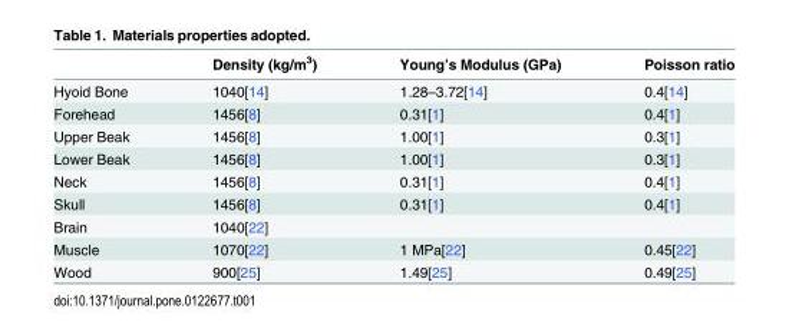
<table><thead><tr><td></td><td>Density (kg/m<sup>3</sup>)</td><td>Young’s Modulus (GPa)</td><td>Poisson ratio</td></tr></thead><tbody><tr><td>Hyoid Bone</td><td>1040[14]</td><td>1.28–3.72[14]</td><td>0.4[14]</td></tr><tr><td>Forehead</td><td>1456[8]</td><td>0.31[1]</td><td>0.4[1]</td></tr><tr><td>Upper Beak</td><td>1456[8]</td><td>1.00[1]</td><td>0.3[1]</td></tr><tr><td>Lower Beak</td><td>1456[8]</td><td>1.00[1]</td><td>0.3[1]</td></tr><tr><td>Neck</td><td>1456[8]</td><td>0.31[1]</td><td>0.4[1]</td></tr><tr><td>Skull</td><td>1456[8]</td><td>0.31[1]</td><td>0.4[1]</td></tr><tr><td>Brain</td><td>1040[22]</td><td></td><td></td></tr><tr><td>Muscle</td><td>1070[22]</td><td>1 MPa[22]</td><td>0.45[22]</td></tr><tr><td>Wood</td><td>900[25]</td><td>1.49[25]</td><td>0.49[25]</td></tr></tbody></table>